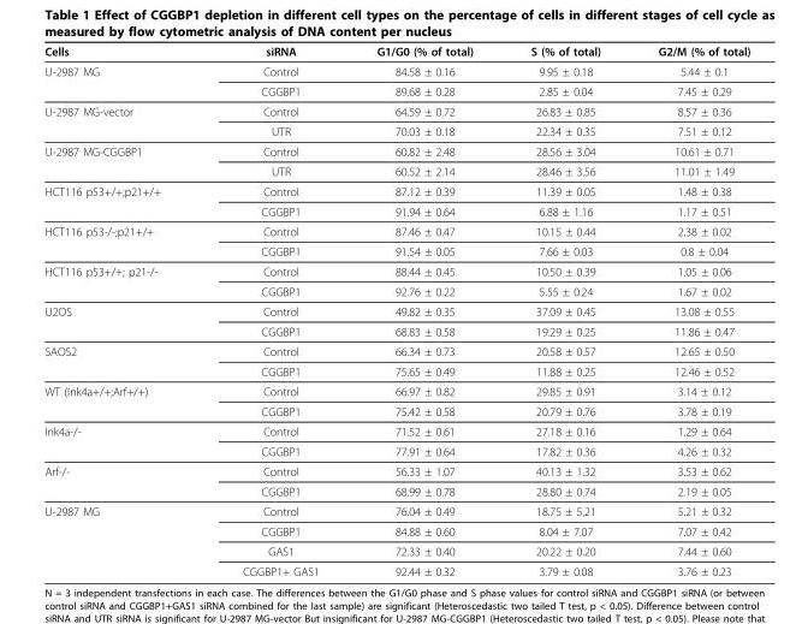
<table><thead><tr><td>Cells</td><td>siRNA</td><td>G1/G0 (% of total)</td><td>S (% of total)</td><td>G2/M (% of total)</td></tr></thead><tbody><tr><td rowspan="2">U-2987 MG</td><td>Control</td><td>84.58 ± 0.16</td><td>9.95 ± 0.18</td><td>5.44 ± 0.1</td></tr><tr><td>CGGBP1</td><td>89.68 ± 0.28</td><td>2.85 ± 0.04</td><td>7.45 ± 0.29</td></tr><tr><td rowspan="2">U-2987 MG-vector</td><td>Control</td><td>64.59 ± 0.72</td><td>26.83 ± 0.85</td><td>8.57 ± 0.36</td></tr><tr><td>UTR</td><td>70.03 ± 0.18</td><td>22.34 ± 0.35</td><td>7.51 ± 0.12</td></tr><tr><td rowspan="2">U-2987 MG-CGGBP1</td><td>Control</td><td>60.82 ± 2.48</td><td>28.56 ± 3.04</td><td>10.61 ± 0.71</td></tr><tr><td>UTR</td><td>60.52 ± 2.14</td><td>28.46 ± 3.56</td><td>11.01 ± 1.49</td></tr><tr><td rowspan="2">HCT116 p53+/+;p21+/+</td><td>Control</td><td>87.12 ± 0.39</td><td>11.39 ± 0.05</td><td>1.48 ± 0.38</td></tr><tr><td>CGGBP1</td><td>91.94 ± 0.64</td><td>6.88 ± 1.16</td><td>1.17 ± 0.51</td></tr><tr><td rowspan="2">HCT116 p53-/-;p21+/+</td><td>Control</td><td>87.46 ± 0.47</td><td>10.15 ± 0.44</td><td>2.38 ± 0.02</td></tr><tr><td>CGGBP1</td><td>91.54 ± 0.05</td><td>7.66 ± 0.03</td><td>0.8 ± 0.04</td></tr><tr><td rowspan="2">HCT116 p53+/+; p21-/-</td><td>Control</td><td>88.44 ± 0.45</td><td>10.50 ± 0.39</td><td>1.05 ± 0.06</td></tr><tr><td>CGGBP1</td><td>92.76 ± 0.22</td><td>5.55 ± 0.24</td><td>1.67 ± 0.02</td></tr><tr><td rowspan="2">U2OS</td><td>Control</td><td>49.82 ± 0.35</td><td>37.09 ± 0.45</td><td>13.08 ± 0.55</td></tr><tr><td>CGGBP1</td><td>68.83 ± 0.58</td><td>19.29 ± 0.25</td><td>11.86 ± 0.47</td></tr><tr><td rowspan="2">SAOS2</td><td>Control</td><td>66.34 ± 0.73</td><td>20.58 ± 0.57</td><td>12.65 ± 0.50</td></tr><tr><td>CGGBP1</td><td>75.65 ± 0.49</td><td>11.88 ± 0.25</td><td>12.46 ± 0.52</td></tr><tr><td rowspan="2">WT (Ink4a+/+;Arf+/+)</td><td>Control</td><td>66.97 ± 0.82</td><td>29.85 ± 0.91</td><td>3.14 ± 0.12</td></tr><tr><td>CGGBP1</td><td>75.42 ± 0.58</td><td>20.79 ± 0.76</td><td>3.78 ± 0.19</td></tr><tr><td rowspan="2">Ink4a-/-</td><td>Control</td><td>71.52 ± 0.61</td><td>27.18 ± 0.16</td><td>1.29 ± 0.64</td></tr><tr><td>CGGBP1</td><td>77.91 ± 0.64</td><td>17.82 ± 0.36</td><td>4.26 ± 0.32</td></tr><tr><td rowspan="2">Arf-/-</td><td>Control</td><td>56.33 ± 1.07</td><td>40.13 ± 1.32</td><td>3.53 ± 0.62</td></tr><tr><td>CGGBP1</td><td>68.99 ± 0.78</td><td>28.80 ± 0.74</td><td>2.19 ± 0.05</td></tr><tr><td rowspan="4">U-2987 MG</td><td>Control</td><td>76.04 ± 0.49</td><td>18.75 ± 5.21</td><td>5.21 ± 0.32</td></tr><tr><td>CGGBP1</td><td>84.88 ± 0.60</td><td>8.04 ± 7.07</td><td>7.07 ± 0.42</td></tr><tr><td>GAS1</td><td>72.33 ± 0.40</td><td>20.22 ± 0.20</td><td>7.44 ± 0.60</td></tr><tr><td>CGGBP1+ GAS1</td><td>92.44 ± 0.32</td><td>3.79 ± 0.08</td><td>3.76 ± 0.23</td></tr></tbody></table>